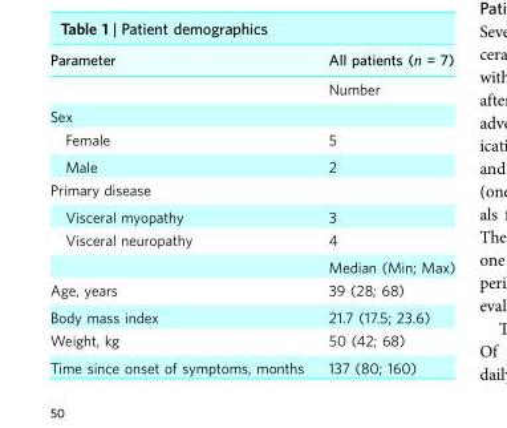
<table><thead><tr><td>Parameter</td><td>All patients (n = 7)</td></tr></thead><tbody><tr><td></td><td>Number</td></tr><tr><td colspan="2">Sex</td></tr><tr><td>Female</td><td>5</td></tr><tr><td>Male</td><td>2</td></tr><tr><td colspan="2">Primary disease</td></tr><tr><td>Visceral myopathy</td><td>3</td></tr><tr><td rowspan="2">Visceral neuropathy</td><td>4</td></tr><tr><td>Median (Min; Max)</td></tr><tr><td>Age, years</td><td>39 (28; 68)</td></tr><tr><td>Body mass index</td><td>21.7 (17.5; 23.6)</td></tr><tr><td>Weight, kg</td><td>50 (42; 68)</td></tr><tr><td>Time since onset of symptoms, months</td><td>137 (80; 160)</td></tr></tbody></table>